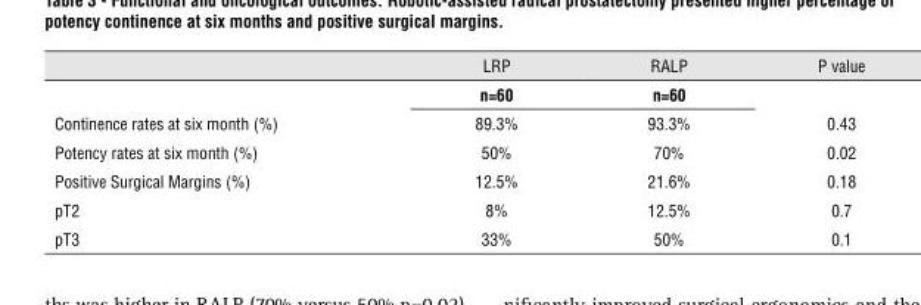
<table><thead><tr><td></td><td>LRP</td><td>RALP</td><td>P value</td></tr></thead><tbody><tr><td></td><td>n=60</td><td>n=60</td><td></td></tr><tr><td>Continence rates at six month (%)</td><td>89.3%</td><td>93.3%</td><td>0.43</td></tr><tr><td>Potency rates at six month (%)</td><td>50%</td><td>70%</td><td>0.02</td></tr><tr><td>Positive Surgical Margins (%)</td><td>12.5%</td><td>21.6%</td><td>0.18</td></tr><tr><td>pT2</td><td>8%</td><td>12.5%</td><td>0.7</td></tr><tr><td>pT3</td><td>33%</td><td>50%</td><td>0.1</td></tr></tbody></table>